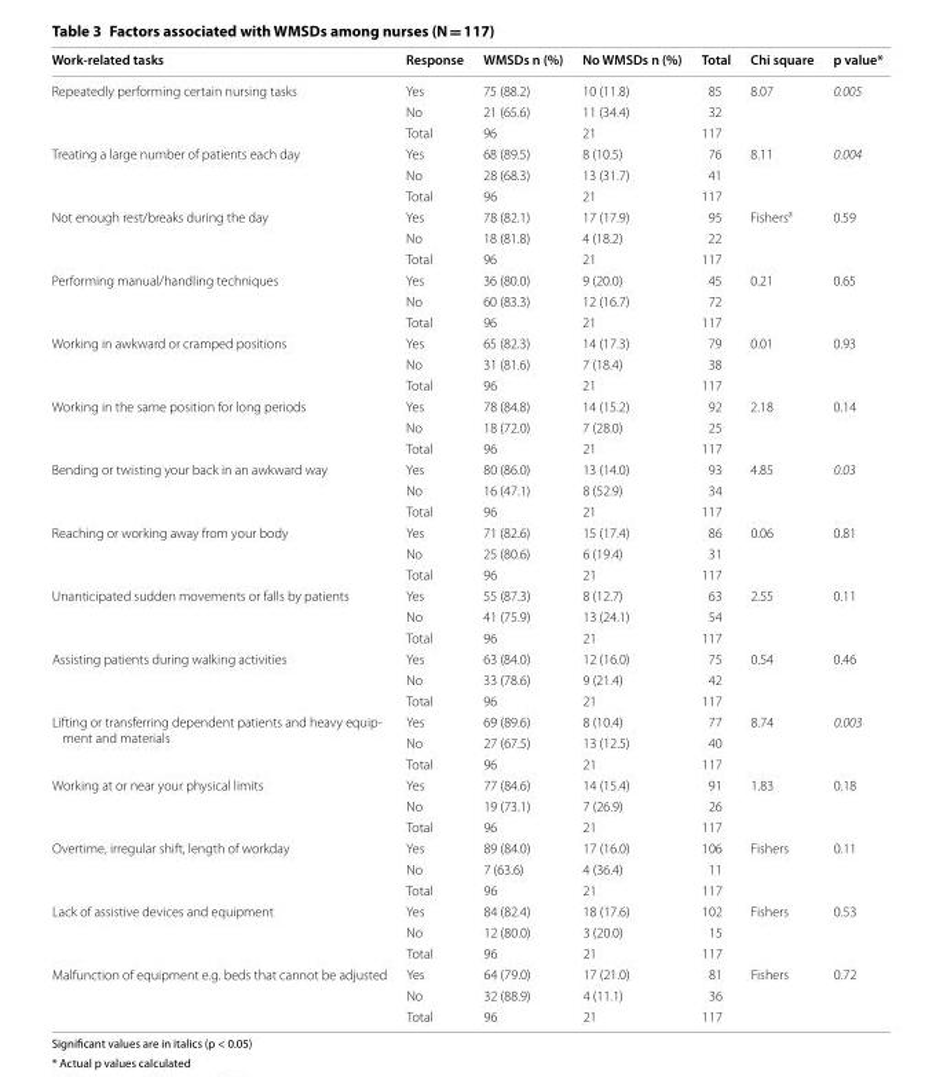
<table><thead><tr><td>Work-related tasks</td><td>Response</td><td>WMSDs n (%)</td><td>No WMSDs n (%)</td><td>Total</td><td>Chi square</td><td>p value*</td></tr></thead><tbody><tr><td rowspan="3">Repeatedly performing certain nursing tasks</td><td>Yes</td><td>75 (88.2)</td><td>10 (11.8)</td><td>85</td><td>8.07</td><td>0.005</td></tr><tr><td>No</td><td>21 (65.6)</td><td>11 (34.4)</td><td>32</td><td></td><td></td></tr><tr><td>Total</td><td>96</td><td>21</td><td>117</td><td></td><td></td></tr><tr><td rowspan="3">Treating a large number of patients each day</td><td>Yes</td><td>68 (89.5)</td><td>8 (10.5)</td><td>76</td><td>8.11</td><td>0.004</td></tr><tr><td>No</td><td>28 (68.3)</td><td>13 (31.7)</td><td>41</td><td></td><td></td></tr><tr><td>Total</td><td>96</td><td>21</td><td>117</td><td></td><td></td></tr><tr><td rowspan="3">Not enough rest/breaks during the day</td><td>Yes</td><td>78 (82.1)</td><td>17 (17.9)</td><td>95</td><td>Fishers<sup>a</sup></td><td>0.59</td></tr><tr><td>No</td><td>18 (81.8)</td><td>4 (18.2)</td><td>22</td><td></td><td></td></tr><tr><td>Total</td><td>96</td><td>21</td><td>117</td><td></td><td></td></tr><tr><td rowspan="3">Performing manual/handling techniques</td><td>Yes</td><td>36 (80.0)</td><td>9 (20.0)</td><td>45</td><td>0.21</td><td>0.65</td></tr><tr><td>No</td><td>60 (83.3)</td><td>12 (16.7)</td><td>72</td><td></td><td></td></tr><tr><td>Total</td><td>96</td><td>21</td><td>117</td><td></td><td></td></tr><tr><td rowspan="3">Working in awkward or cramped positions</td><td>Yes</td><td>65 (82.3)</td><td>14 (17.3)</td><td>79</td><td>0.01</td><td>0.93</td></tr><tr><td>No</td><td>31 (81.6)</td><td>7 (18.4)</td><td>38</td><td></td><td></td></tr><tr><td>Total</td><td>96</td><td>21</td><td>117</td><td></td><td></td></tr><tr><td rowspan="3">Working in the same position for long periods</td><td>Yes</td><td>78 (84.8)</td><td>14 (15.2)</td><td>92</td><td>2.18</td><td>0.14</td></tr><tr><td>No</td><td>18 (72.0)</td><td>7 (28.0)</td><td>25</td><td></td><td></td></tr><tr><td>Total</td><td>96</td><td>21</td><td>117</td><td></td><td></td></tr><tr><td rowspan="3">Bending or twisting your back in an awkward way</td><td>Yes</td><td>80 (86.0)</td><td>13 (14.0)</td><td>93</td><td>4.85</td><td>0.03</td></tr><tr><td>No</td><td>16 (47.1)</td><td>8 (52.9)</td><td>34</td><td></td><td></td></tr><tr><td>Total</td><td>96</td><td>21</td><td>117</td><td></td><td></td></tr><tr><td rowspan="3">Reaching or working away from your body</td><td>Yes</td><td>71 (82.6)</td><td>15 (17.4)</td><td>86</td><td>0.06</td><td>0.81</td></tr><tr><td>No</td><td>25 (80.6)</td><td>6 (19.4)</td><td>31</td><td></td><td></td></tr><tr><td>Total</td><td>96</td><td>21</td><td>117</td><td></td><td></td></tr><tr><td rowspan="3">Unanticipated sudden movements or falls by patients</td><td>Yes</td><td>55 (87.3)</td><td>8 (12.7)</td><td>63</td><td>2.55</td><td>0.11</td></tr><tr><td>No</td><td>41 (75.9)</td><td>13 (24.1)</td><td>54</td><td></td><td></td></tr><tr><td>Total</td><td>96</td><td>21</td><td>117</td><td></td><td></td></tr><tr><td rowspan="3">Assisting patients during walking activities</td><td>Yes</td><td>63 (84.0)</td><td>12 (16.0)</td><td>75</td><td>0.54</td><td>0.46</td></tr><tr><td>No</td><td>33 (78.6)</td><td>9 (21.4)</td><td>42</td><td></td><td></td></tr><tr><td>Total</td><td>96</td><td>21</td><td>117</td><td></td><td></td></tr><tr><td rowspan="3">Lifting or transferring dependent patients and heavy equip- ment and materials</td><td>Yes</td><td>69 (89.6)</td><td>8 (10.4)</td><td>77</td><td>8.74</td><td>0.003</td></tr><tr><td>No</td><td>27 (67.5)</td><td>13 (12.5)</td><td>40</td><td></td><td></td></tr><tr><td>Total</td><td>96</td><td>21</td><td>117</td><td></td><td></td></tr><tr><td rowspan="3">Working at or near your physical limits</td><td>Yes</td><td>77 (84.6)</td><td>14 (15.4)</td><td>91</td><td>1.83</td><td>0.18</td></tr><tr><td>No</td><td>19 (73.1)</td><td>7 (26.9)</td><td>26</td><td></td><td></td></tr><tr><td>Total</td><td>96</td><td>21</td><td>117</td><td></td><td></td></tr><tr><td rowspan="3">Overtime, irregular shift, length of workday</td><td>Yes</td><td>89 (84.0)</td><td>17 (16.0)</td><td>106</td><td>Fishers</td><td>0.11</td></tr><tr><td>No</td><td>7 (63.6)</td><td>4 (36.4)</td><td>11</td><td></td><td></td></tr><tr><td>Total</td><td>96</td><td>21</td><td>117</td><td></td><td></td></tr><tr><td rowspan="3">Lack of assistive devices and equipment</td><td>Yes</td><td>84 (82.4)</td><td>18 (17.6)</td><td>102</td><td>Fishers</td><td>0.53</td></tr><tr><td>No</td><td>12 (80.0)</td><td>3 (20.0)</td><td>15</td><td></td><td></td></tr><tr><td>Total</td><td>96</td><td>21</td><td>117</td><td></td><td></td></tr><tr><td rowspan="3">Malfunction of equipment e.g. beds that cannot be adjusted</td><td>Yes</td><td>64 (79.0)</td><td>17 (21.0)</td><td>81</td><td>Fishers</td><td>0.72</td></tr><tr><td>No</td><td>32 (88.9)</td><td>4 (11.1)</td><td>36</td><td></td><td></td></tr><tr><td>Total</td><td>96</td><td>21</td><td>117</td><td></td><td></td></tr></tbody></table>